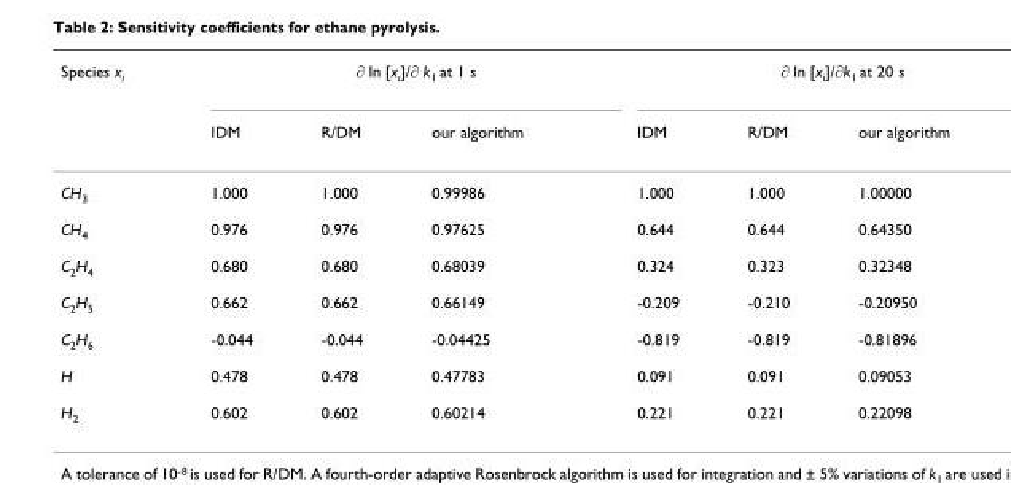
<table><thead><tr><td rowspan="2">Species x<sub>i</sub></td><td colspan="3">∂ ln [x<sub>i</sub>]/∂ k<sub>1</sub> at 1 s</td><td colspan="3">∂ ln [x<sub>i</sub>]/∂k<sub>1</sub> at 20 s</td></tr><tr><td>IDM</td><td>R/DM</td><td>our algorithm</td><td>IDM</td><td>R/DM</td><td>our algorithm</td></tr></thead><tbody><tr><td>CH<sub>3</sub></td><td>1.000</td><td>1.000</td><td>0.99986</td><td>1.000</td><td>1.000</td><td>1.00000</td></tr><tr><td>CH<sub>4</sub></td><td>0.976</td><td>0.976</td><td>0.97625</td><td>0.644</td><td>0.644</td><td>0.64350</td></tr><tr><td>C<sub>2</sub>H<sub>4</sub></td><td>0.680</td><td>0.680</td><td>0.68039</td><td>0.324</td><td>0.323</td><td>0.32348</td></tr><tr><td>C<sub>2</sub>H<sub>5</sub></td><td>0.662</td><td>0.662</td><td>0.66149</td><td>-0.209</td><td>-0.210</td><td>-0.20950</td></tr><tr><td>C<sub>2</sub>H<sub>6</sub></td><td>-0.044</td><td>-0.044</td><td>-0.04425</td><td>-0.819</td><td>-0.819</td><td>-0.81896</td></tr><tr><td>H</td><td>0.478</td><td>0.478</td><td>0.47783</td><td>0.091</td><td>0.091</td><td>0.09053</td></tr><tr><td>H<sub>2</sub></td><td>0.602</td><td>0.602</td><td>0.60214</td><td>0.221</td><td>0.221</td><td>0.22098</td></tr></tbody></table>